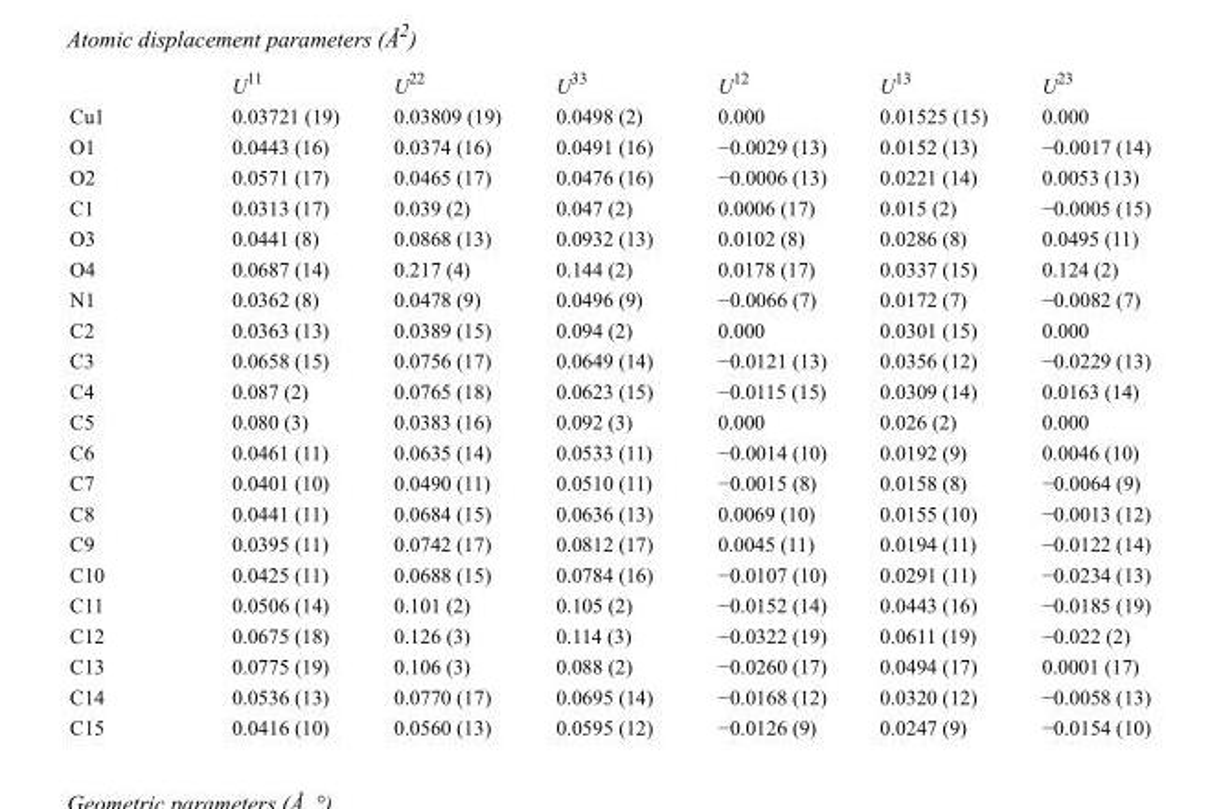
<table><thead><tr><td></td><td>U<sup>11</sup></td><td>U<sup>22</sup></td><td>U<sup>33</sup></td><td>U<sup>12</sup></td><td>U<sup>13</sup></td><td>U<sup>23</sup></td></tr></thead><tbody><tr><td>Cu1</td><td>0.03721 (19)</td><td>0.03809 (19)</td><td>0.0498 (2)</td><td>0.000</td><td>0.01525 (15)</td><td>0.000</td></tr><tr><td>O1</td><td>0.0443 (16)</td><td>0.0374 (16)</td><td>0.0491 (16)</td><td>−0.0029 (13)</td><td>0.0152 (13)</td><td>−0.0017 (14)</td></tr><tr><td>O2</td><td>0.0571 (17)</td><td>0.0465 (17)</td><td>0.0476 (16)</td><td>−0.0006 (13)</td><td>0.0221 (14)</td><td>0.0053 (13)</td></tr><tr><td>C1</td><td>0.0313 (17)</td><td>0.039 (2)</td><td>0.047 (2)</td><td>0.0006 (17)</td><td>0.015 (2)</td><td>−0.0005 (15)</td></tr><tr><td>O3</td><td>0.0441 (8)</td><td>0.0868 (13)</td><td>0.0932 (13)</td><td>0.0102 (8)</td><td>0.0286 (8)</td><td>0.0495 (11)</td></tr><tr><td>O4</td><td>0.0687 (14)</td><td>0.217 (4)</td><td>0.144 (2)</td><td>0.0178 (17)</td><td>0.0337 (15)</td><td>0.124 (2)</td></tr><tr><td>N1</td><td>0.0362 (8)</td><td>0.0478 (9)</td><td>0.0496 (9)</td><td>−0.0066 (7)</td><td>0.0172 (7)</td><td>−0.0082 (7)</td></tr><tr><td>C2</td><td>0.0363 (13)</td><td>0.0389 (15)</td><td>0.094 (2)</td><td>0.000</td><td>0.0301 (15)</td><td>0.000</td></tr><tr><td>C3</td><td>0.0658 (15)</td><td>0.0756 (17)</td><td>0.0649 (14)</td><td>−0.0121 (13)</td><td>0.0356 (12)</td><td>−0.0229 (13)</td></tr><tr><td>C4</td><td>0.087 (2)</td><td>0.0765 (18)</td><td>0.0623 (15)</td><td>−0.0115 (15)</td><td>0.0309 (14)</td><td>0.0163 (14)</td></tr><tr><td>C5</td><td>0.080 (3)</td><td>0.0383 (16)</td><td>0.092 (3)</td><td>0.000</td><td>0.026 (2)</td><td>0.000</td></tr><tr><td>C6</td><td>0.0461 (11)</td><td>0.0635 (14)</td><td>0.0533 (11)</td><td>−0.0014 (10)</td><td>0.0192 (9)</td><td>0.0046 (10)</td></tr><tr><td>C7</td><td>0.0401 (10)</td><td>0.0490 (11)</td><td>0.0510 (11)</td><td>−0.0015 (8)</td><td>0.0158 (8)</td><td>−0.0064 (9)</td></tr><tr><td>C8</td><td>0.0441 (11)</td><td>0.0684 (15)</td><td>0.0636 (13)</td><td>0.0069 (10)</td><td>0.0155 (10)</td><td>−0.0013 (12)</td></tr><tr><td>C9</td><td>0.0395 (11)</td><td>0.0742 (17)</td><td>0.0812 (17)</td><td>0.0045 (11)</td><td>0.0194 (11)</td><td>−0.0122 (14)</td></tr><tr><td>C10</td><td>0.0425 (11)</td><td>0.0688 (15)</td><td>0.0784 (16)</td><td>−0.0107 (10)</td><td>0.0291 (11)</td><td>−0.0234 (13)</td></tr><tr><td>C11</td><td>0.0506 (14)</td><td>0.101 (2)</td><td>0.105 (2)</td><td>−0.0152 (14)</td><td>0.0443 (16)</td><td>−0.0185 (19)</td></tr><tr><td>C12</td><td>0.0675 (18)</td><td>0.126 (3)</td><td>0.114 (3)</td><td>−0.0322 (19)</td><td>0.0611 (19)</td><td>−0.022 (2)</td></tr><tr><td>C13</td><td>0.0775 (19)</td><td>0.106 (3)</td><td>0.088 (2)</td><td>−0.0260 (17)</td><td>0.0494 (17)</td><td>0.0001 (17)</td></tr><tr><td>C14</td><td>0.0536 (13)</td><td>0.0770 (17)</td><td>0.0695 (14)</td><td>−0.0168 (12)</td><td>0.0320 (12)</td><td>−0.0058 (13)</td></tr><tr><td>C15</td><td>0.0416 (10)</td><td>0.0560 (13)</td><td>0.0595 (12)</td><td>−0.0126 (9)</td><td>0.0247 (9)</td><td>−0.0154 (10)</td></tr></tbody></table>